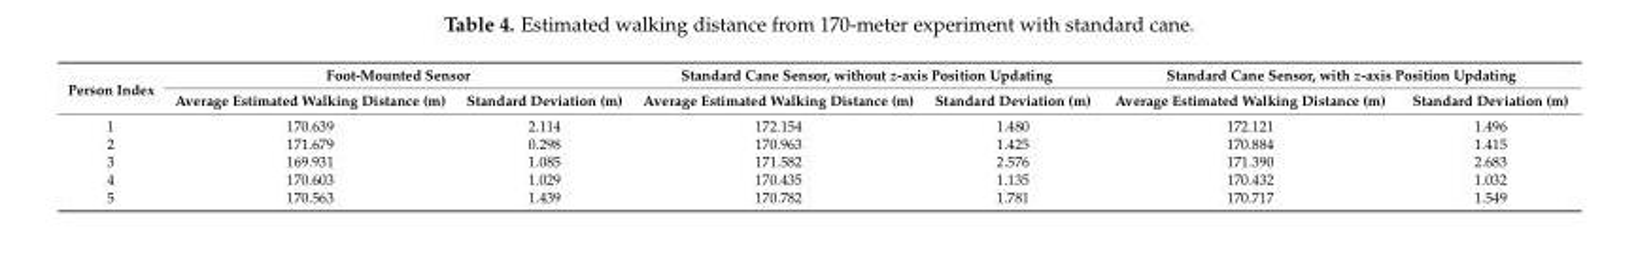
<table><thead><tr><td rowspan="2">Person Index</td><td colspan="2">Foot-Mounted Sensor</td><td colspan="2">Standard Cane Sensor, without z-axis Position Updating</td><td colspan="2">Standard Cane Sensor, with z-axis Position Updating</td></tr><tr><td>Average Estimated Walking Distance (m)</td><td>Standard Deviation (m)</td><td>Average Estimated Walking Distance (m)</td><td>Standard Deviation (m)</td><td>Average Estimated Walking Distance (m)</td><td>Standard Deviation (m)</td></tr></thead><tbody><tr><td>1</td><td>170.639</td><td>2.114</td><td>172.154</td><td>1.480</td><td>172.121</td><td>1.496</td></tr><tr><td>2</td><td>171.679</td><td>0.298</td><td>170.963</td><td>1.425</td><td>170.884</td><td>1.415</td></tr><tr><td>3</td><td>169.931</td><td>1.085</td><td>171.582</td><td>2.576</td><td>171.390</td><td>2.683</td></tr><tr><td>4</td><td>170.603</td><td>1.029</td><td>170.435</td><td>1.135</td><td>170.432</td><td>1.032</td></tr><tr><td>5</td><td>170.563</td><td>1.439</td><td>170.782</td><td>1.781</td><td>170.717</td><td>1.549</td></tr></tbody></table>